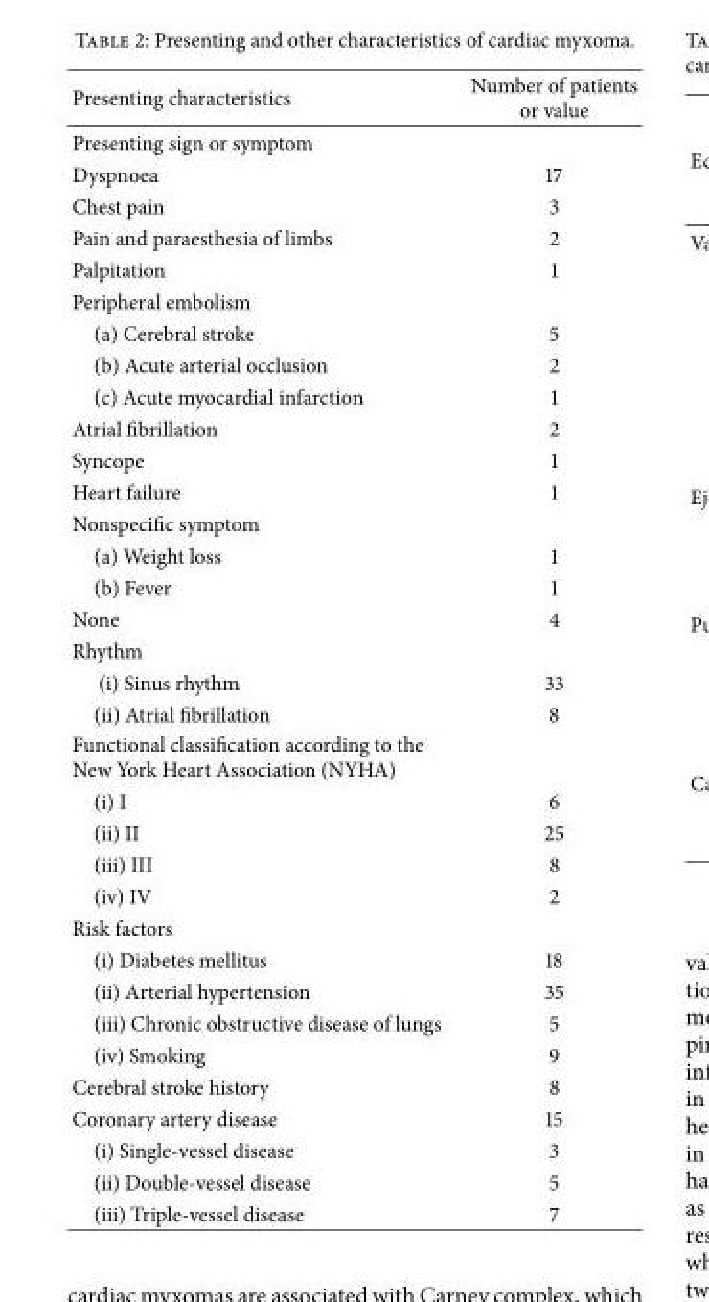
<table><thead><tr><td>Presenting characteristics</td><td>Number of patients or value</td></tr></thead><tbody><tr><td colspan="2">Presenting sign or symptom</td></tr><tr><td>Dyspnoea</td><td>17</td></tr><tr><td>Chest pain</td><td>3</td></tr><tr><td>Pain and paraesthesia of limbs</td><td>2</td></tr><tr><td>Palpitation</td><td>1</td></tr><tr><td colspan="2">Peripheral embolism</td></tr><tr><td>(a) Cerebral stroke</td><td>5</td></tr><tr><td>(b) Acute arterial occlusion</td><td>2</td></tr><tr><td>(c) Acute myocardial infarction</td><td>1</td></tr><tr><td>Atrial fibrillation</td><td>2</td></tr><tr><td>Syncope</td><td>1</td></tr><tr><td>Heart failure</td><td>1</td></tr><tr><td colspan="2">Nonspecific symptom</td></tr><tr><td>(a) Weight loss</td><td>1</td></tr><tr><td>(b) Fever</td><td>1</td></tr><tr><td>None</td><td>4</td></tr><tr><td colspan="2">Rhythm</td></tr><tr><td>(i) Sinus rhythm</td><td>33</td></tr><tr><td>(ii) Atrial fibrillation</td><td>8</td></tr><tr><td colspan="2">Functional classification according to the New York Heart Association (NYHA)</td></tr><tr><td>(i) I</td><td>6</td></tr><tr><td>(ii) II</td><td>25</td></tr><tr><td>(iii) III</td><td>8</td></tr><tr><td>(iv) IV</td><td>2</td></tr><tr><td colspan="2">Risk factors</td></tr><tr><td>(i) Diabetes mellitus</td><td>18</td></tr><tr><td>(ii) Arterial hypertension</td><td>35</td></tr><tr><td>(iii) Chronic obstructive disease of lungs</td><td>5</td></tr><tr><td>(iv) Smoking</td><td>9</td></tr><tr><td>Cerebral stroke history</td><td>8</td></tr><tr><td>Coronary artery disease</td><td>15</td></tr><tr><td>(i) Single-vessel disease</td><td>3</td></tr><tr><td>(ii) Double-vessel disease</td><td>5</td></tr><tr><td>(iii) Triple-vessel disease</td><td>7</td></tr></tbody></table>